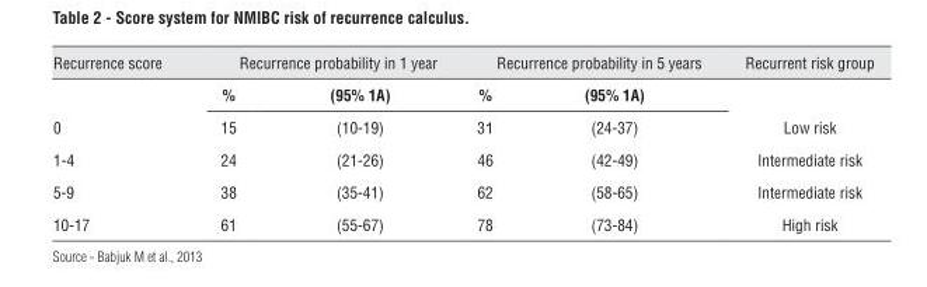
<table><thead><tr><td rowspan="2">Recurrence score</td><td colspan="2">Recurrence probability in 1 year</td><td colspan="2">Recurrence probability in 5 years</td><td rowspan="2">Recurrent risk group</td></tr><tr><td>%</td><td>(95% 1A)</td><td>%</td><td>(95% 1A)</td></tr></thead><tbody><tr><td>0</td><td>15</td><td>(10-19)</td><td>31</td><td>(24-37)</td><td>Low risk</td></tr><tr><td>1-4</td><td>24</td><td>(21-26)</td><td>46</td><td>(42-49)</td><td>Intermediate risk</td></tr><tr><td>5-9</td><td>38</td><td>(35-41)</td><td>62</td><td>(58-65)</td><td>Intermediate risk</td></tr><tr><td>10-17</td><td>61</td><td>(55-67)</td><td>78</td><td>(73-84)</td><td>High risk</td></tr></tbody></table>